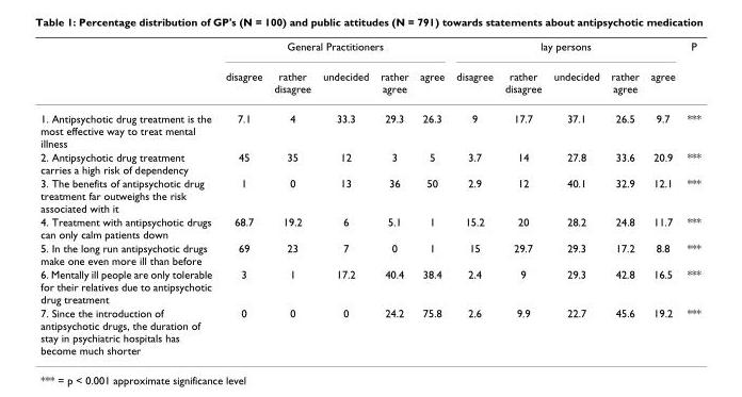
<table><thead><tr><td rowspan="2"></td><td colspan="5">General Practitioners</td><td colspan="5">lay persons</td><td rowspan="2">P</td></tr><tr><td>disagree</td><td>rather disagree</td><td>undecided</td><td>rather agree</td><td>agree</td><td>disagree</td><td>rather disagree</td><td>undecided</td><td>rather agree</td><td>agree</td></tr></thead><tbody><tr><td>1. Antipsychotic drug treatment is the most effective way to treat mental illness</td><td>7.1</td><td>4</td><td>33.3</td><td>29.3</td><td>26.3</td><td>9</td><td>17.7</td><td>37.1</td><td>26.5</td><td>9.7</td><td>***</td></tr><tr><td>2. Antipsychotic drug treatment carries a high risk of dependency</td><td>45</td><td>35</td><td>12</td><td>3</td><td>5</td><td>3.7</td><td>14</td><td>27.8</td><td>33.6</td><td>20.9</td><td>***</td></tr><tr><td>3. The benefits of antipsychotic drug treatment far outweighs the risk associated with it</td><td>1</td><td>0</td><td>13</td><td>36</td><td>50</td><td>2.9</td><td>12</td><td>40.1</td><td>32.9</td><td>12.1</td><td>***</td></tr><tr><td>4. Treatment with antipsychotic drugs can only calm patients down</td><td>68.7</td><td>19.2</td><td>6</td><td>5.1</td><td>1</td><td>15.2</td><td>20</td><td>28.2</td><td>24.8</td><td>11.7</td><td>***</td></tr><tr><td>5. In the long run antipsychotic drugs make one even more ill than before</td><td>69</td><td>23</td><td>7</td><td>0</td><td>1</td><td>15</td><td>29.7</td><td>29.3</td><td>17.2</td><td>8.8</td><td>***</td></tr><tr><td>6. Mentally ill people are only tolerable for their relatives due to antipsychotic drug treatment</td><td>3</td><td>1</td><td>17.2</td><td>40.4</td><td>38.4</td><td>2.4</td><td>9</td><td>29.3</td><td>42.8</td><td>16.5</td><td>***</td></tr><tr><td>7. Since the introduction of antipsychotic drugs, the duration of stay in psychiatric hospitals has become much shorter</td><td>0</td><td>0</td><td>0</td><td>24.2</td><td>75.8</td><td>2.6</td><td>9.9</td><td>22.7</td><td>45.6</td><td>19.2</td><td>***</td></tr></tbody></table>